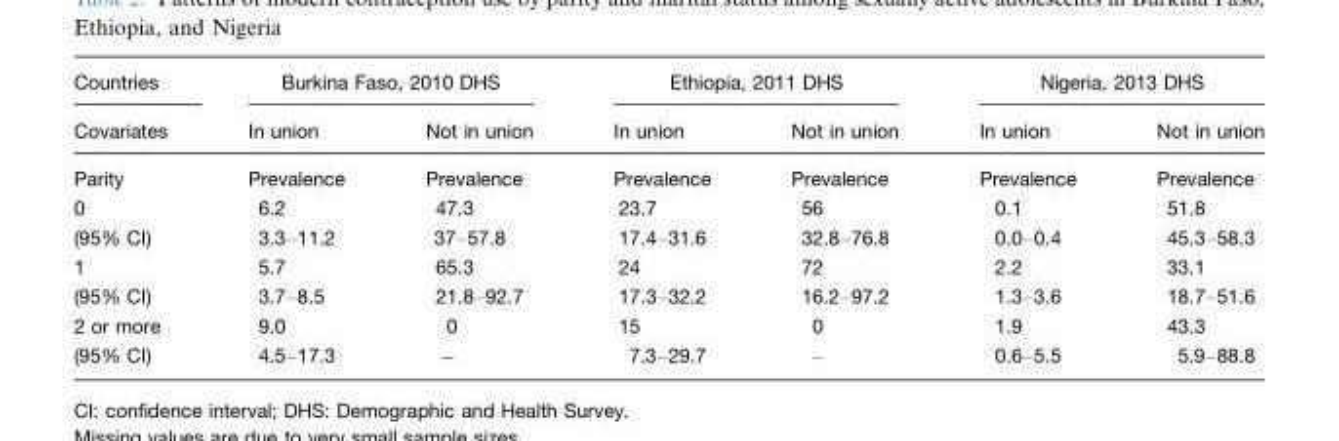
<table><thead><tr><td rowspan="2">Countries Covariates</td><td colspan="2">Burkina Faso, 2010 DHS</td><td colspan="2">Ethiopia, 2011 DHS</td><td colspan="2">Nigeria, 2013 DHS</td></tr><tr><td>In union</td><td>Not in union</td><td>In union</td><td>Not in union</td><td>In union</td><td>Not in union</td></tr></thead><tbody><tr><td>Parity</td><td>Prevalence</td><td>Prevalence</td><td>Prevalence</td><td>Prevalence</td><td>Prevalence</td><td>Prevalence</td></tr><tr><td>0</td><td>6.2</td><td>47.3</td><td>23.7</td><td>56</td><td>0.1</td><td>51.8</td></tr><tr><td>(95% CI)</td><td>3.3–11.2</td><td>37–57.8</td><td>17.4–31.6</td><td>32.8–76.8</td><td>0.0–0.4</td><td>45.3–58.3</td></tr><tr><td>1</td><td>5.7</td><td>65.3</td><td>24</td><td>72</td><td>2.2</td><td>33.1</td></tr><tr><td>(95% CI)</td><td>3.7–8.5</td><td>21.8–92.7</td><td>17.3–32.2</td><td>16.2–97.2</td><td>1.3–3.6</td><td>18.7–51.6</td></tr><tr><td>2 or more</td><td>9.0</td><td>0</td><td>15</td><td>0</td><td>1.9</td><td>43.3</td></tr><tr><td>(95% CI)</td><td>4.5–17.3</td><td>−</td><td>7.3–29.7</td><td>–</td><td>0.6–5.5</td><td>5.9–88.8</td></tr></tbody></table>